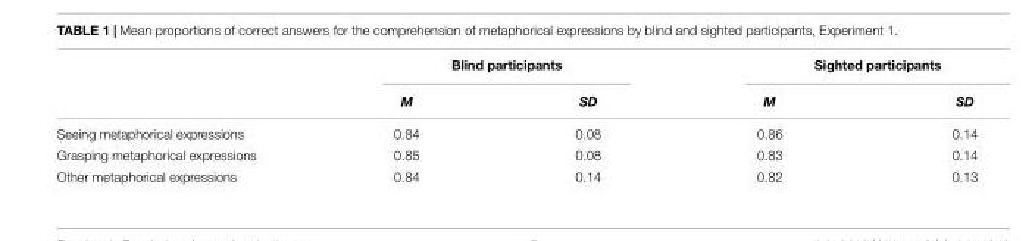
<table><thead><tr><td rowspan="2"></td><td colspan="2">Blind participants</td><td colspan="2">Sighted participants</td></tr><tr><td>M</td><td>SD</td><td>M</td><td>SD</td></tr></thead><tbody><tr><td>Seeing metaphorical expressions</td><td>0.84</td><td>0.08</td><td>0.86</td><td>0.14</td></tr><tr><td>Grasping metaphorical expressions</td><td>0.85</td><td>0.08</td><td>0.83</td><td>0.14</td></tr><tr><td>Other metaphorical expressions</td><td>0.84</td><td>0.14</td><td>0.82</td><td>0.13</td></tr></tbody></table>